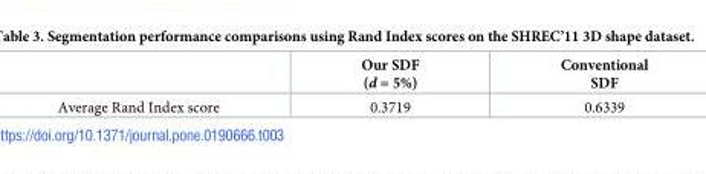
<table><thead><tr><td></td><td>Our SDF (d = 5%)</td><td>Conventional SDF</td></tr></thead><tbody><tr><td>Average Rand Index score</td><td>0.3719</td><td>0.6339</td></tr></tbody></table>